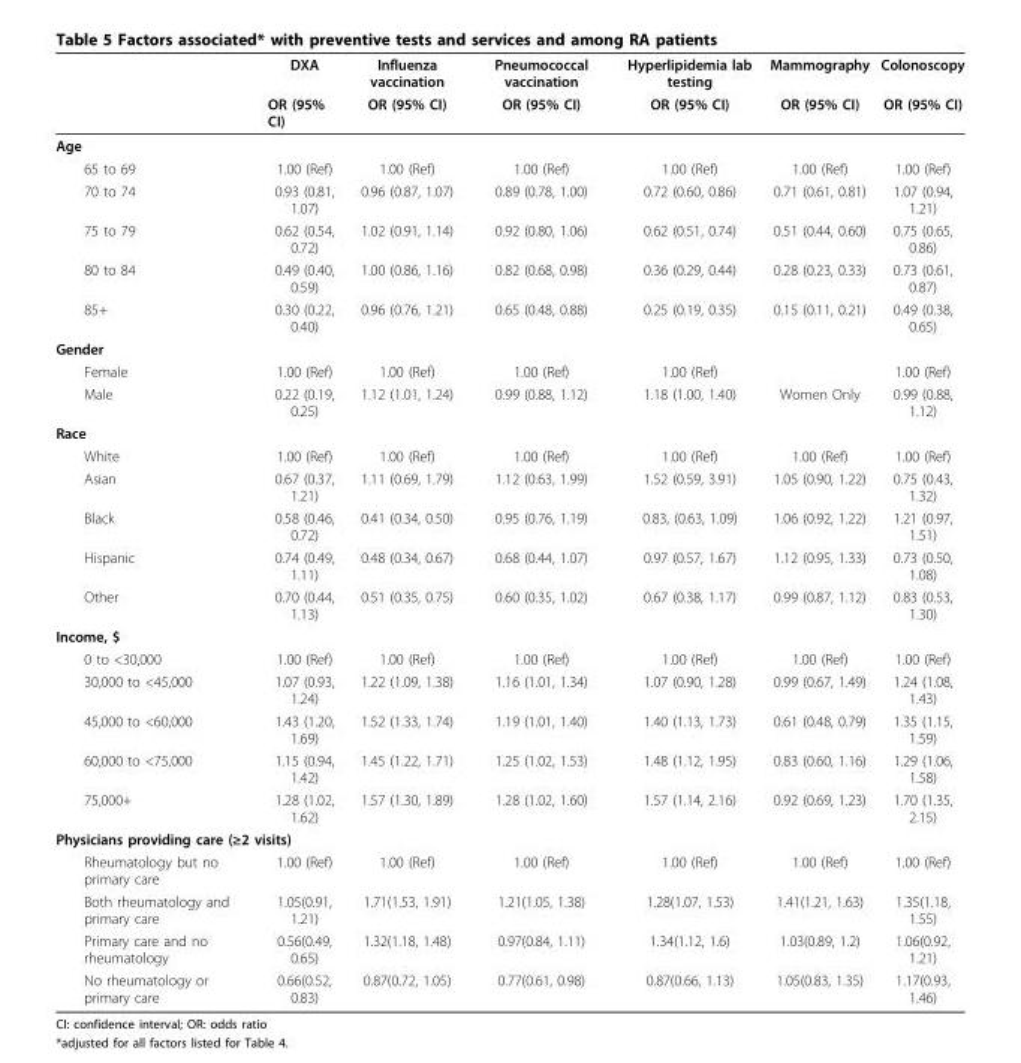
<table><thead><tr><td rowspan="2"></td><td rowspan="2">DXA OR (95% CI)</td><td rowspan="2">Influenza vaccination OR (95% CI)</td><td rowspan="2">Pneumococcal vaccination OR (95% CI)</td><td rowspan="2">Hyperlipidemia lab testing OR (95% CI)</td><td rowspan="2">Mammography OR (95% CI)</td><td rowspan="2">Colonoscopy OR (95% CI)</td></tr><tr></tr></thead><tbody><tr><td colspan="7">Age</td></tr><tr><td>65 to 69</td><td>1.00 (Ref)</td><td>1.00 (Ref)</td><td>1.00 (Ref)</td><td>1.00 (Ref)</td><td>1.00 (Ref)</td><td>1.00 (Ref)</td></tr><tr><td>70 to 74</td><td>0.93 (0.81, 1.07)</td><td>0.96 (0.87, 1.07)</td><td>0.89 (0.78, 1.00)</td><td>0.72 (0.60, 0.86)</td><td>0.71 (0.61, 0.81)</td><td>1.07 (0.94, 1.21)</td></tr><tr><td>75 to 79</td><td>0.62 (0.54, 0.72)</td><td>1.02 (0.91, 1.14)</td><td>0.92 (0.80, 1.06)</td><td>0.62 (0.51, 0.74)</td><td>0.51 (0.44, 0.60)</td><td>0.75 (0.65, 0.86)</td></tr><tr><td>80 to 84</td><td>0.49 (0.40, 0.59)</td><td>1.00 (0.86, 1.16)</td><td>0.82 (0.68, 0.98)</td><td>0.36 (0.29, 0.44)</td><td>0.28 (0.23, 0.33)</td><td>0.73 (0.61, 0.87)</td></tr><tr><td>85+</td><td>0.30 (0.22, 0.40)</td><td>0.96 (0.76, 1.21)</td><td>0.65 (0.48, 0.88)</td><td>0.25 (0.19, 0.35)</td><td>0.15 (0.11, 0.21)</td><td>0.49 (0.38, 0.65)</td></tr><tr><td colspan="7">Gender</td></tr><tr><td>Female</td><td>1.00 (Ref)</td><td>1.00 (Ref)</td><td>1.00 (Ref)</td><td>1.00 (Ref)</td><td></td><td>1.00 (Ref)</td></tr><tr><td>Male</td><td>0.22 (0.19, 0.25)</td><td>1.12 (1.01, 1.24)</td><td>0.99 (0.88, 1.12)</td><td>1.18 (1.00, 1.40)</td><td>Women Only</td><td>0.99 (0.88, 1.12)</td></tr><tr><td colspan="7">Race</td></tr><tr><td>White</td><td>1.00 (Ref)</td><td>1.00 (Ref)</td><td>1.00 (Ref)</td><td>1.00 (Ref)</td><td>1.00 (Ref)</td><td>1.00 (Ref)</td></tr><tr><td>Asian</td><td>0.67 (0.37, 1.21)</td><td>1.11 (0.69, 1.79)</td><td>1.12 (0.63, 1.99)</td><td>1.52 (0.59, 3.91)</td><td>1.05 (0.90, 1.22)</td><td>0.75 (0.43, 1.32)</td></tr><tr><td>Black</td><td>0.58 (0.46, 0.72)</td><td>0.41 (0.34, 0.50)</td><td>0.95 (0.76, 1.19)</td><td>0.83, (0.63, 1.09)</td><td>1.06 (0.92, 1.22)</td><td>1.21 (0.97, 1.51)</td></tr><tr><td>Hispanic</td><td>0.74 (0.49, 1.11)</td><td>0.48 (0.34, 0.67)</td><td>0.68 (0.44, 1.07)</td><td>0.97 (0.57, 1.67)</td><td>1.12 (0.95, 1.33)</td><td>0.73 (0.50, 1.08)</td></tr><tr><td>Other</td><td>0.70 (0.44, 1.13)</td><td>0.51 (0.35, 0.75)</td><td>0.60 (0.35, 1.02)</td><td>0.67 (0.38, 1.17)</td><td>0.99 (0.87, 1.12)</td><td>0.83 (0.53, 1.30)</td></tr><tr><td colspan="7">Income, $</td></tr><tr><td>0 to &lt;30,000</td><td>1.00 (Ref)</td><td>1.00 (Ref)</td><td>1.00 (Ref)</td><td>1.00 (Ref)</td><td>1.00 (Ref)</td><td>1.00 (Ref)</td></tr><tr><td>30,000 to &lt;45,000</td><td>1.07 (0.93, 1.24)</td><td>1.22 (1.09, 1.38)</td><td>1.16 (1.01, 1.34)</td><td>1.07 (0.90, 1.28)</td><td>0.99 (0.67, 1.49)</td><td>1.24 (1.08, 1.43)</td></tr><tr><td>45,000 to &lt;60,000</td><td>1.43 (1.20, 1.69)</td><td>1.52 (1.33, 1.74)</td><td>1.19 (1.01, 1.40)</td><td>1.40 (1.13, 1.73)</td><td>0.61 (0.48, 0.79)</td><td>1.35 (1.15, 1.59)</td></tr><tr><td>60,000 to &lt;75,000</td><td>1.15 (0.94, 1.42)</td><td>1.45 (1.22, 1.71)</td><td>1.25 (1.02, 1.53)</td><td>1.48 (1.12, 1.95)</td><td>0.83 (0.60, 1.16)</td><td>1.29 (1.06, 1.58)</td></tr><tr><td>75,000+</td><td>1.28 (1.02, 1.62)</td><td>1.57 (1.30, 1.89)</td><td>1.28 (1.02, 1.60)</td><td>1.57 (1.14, 2.16)</td><td>0.92 (0.69, 1.23)</td><td>1.70 (1.35, 2.15)</td></tr><tr><td colspan="7">Physicians providing care (≥2 visits)</td></tr><tr><td>Rheumatology but no primary care</td><td>1.00 (Ref)</td><td>1.00 (Ref)</td><td>1.00 (Ref)</td><td>1.00 (Ref)</td><td>1.00 (Ref)</td><td>1.00 (Ref)</td></tr><tr><td>Both rheumatology and primary care</td><td>1.05(0.91, 1.21)</td><td>1.71(1.53, 1.91)</td><td>1.21(1.05, 1.38)</td><td>1.28(1.07, 1.53)</td><td>1.41(1.21, 1.63)</td><td>1.35(1.18, 1.55)</td></tr><tr><td>Primary care and no rheumatology</td><td>0.56(0.49, 0.65)</td><td>1.32(1.18, 1.48)</td><td>0.97(0.84, 1.11)</td><td>1.34(1.12, 1.6)</td><td>1.03(0.89, 1.2)</td><td>1.06(0.92, 1.21)</td></tr><tr><td>No rheumatology or primary care</td><td>0.66(0.52, 0.83)</td><td>0.87(0.72, 1.05)</td><td>0.77(0.61, 0.98)</td><td>0.87(0.66, 1.13)</td><td>1.05(0.83, 1.35)</td><td>1.17(0.93, 1.46)</td></tr></tbody></table>